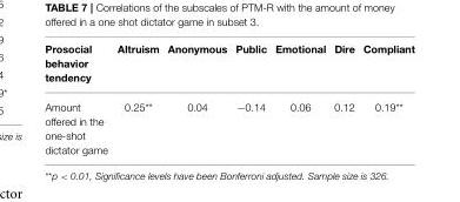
<table><thead><tr><td>Prosocial behavior tendency</td><td>Altruism</td><td>Anonymous</td><td>Public</td><td>Emotional</td><td>Dire</td><td>Compliant</td></tr></thead><tbody><tr><td>Amount offered in the one-shot dictator game</td><td>0.25**</td><td>0.04</td><td>−0.14</td><td>0.06</td><td>0.12</td><td>0.19**</td></tr></tbody></table>